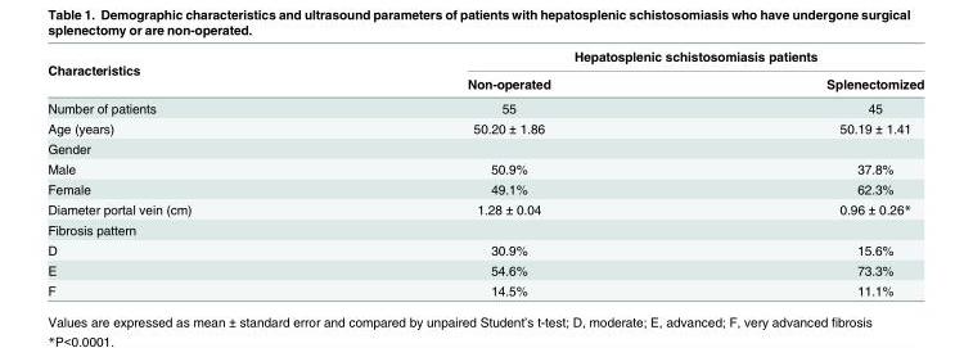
<table><thead><tr><td rowspan="2">Characteristics</td><td colspan="2">Hepatosplenic schistosomiasis patients</td></tr><tr><td>Non-operated</td><td>Splenectomized</td></tr></thead><tbody><tr><td>Number of patients</td><td>55</td><td>45</td></tr><tr><td>Age (years)</td><td>50.20 ± 1.86</td><td>50.19 ± 1.41</td></tr><tr><td colspan="3">Gender</td></tr><tr><td>Male</td><td>50.9%</td><td>37.8%</td></tr><tr><td>Female</td><td>49.1%</td><td>62.3%</td></tr><tr><td>Diameter portal vein (cm)</td><td>1.28 ± 0.04</td><td>0.96 ± 0.26*</td></tr><tr><td colspan="3">Fibrosis pattern</td></tr><tr><td>D</td><td>30.9%</td><td>15.6%</td></tr><tr><td>E</td><td>54.6%</td><td>73.3%</td></tr><tr><td>F</td><td>14.5%</td><td>11.1%</td></tr></tbody></table>